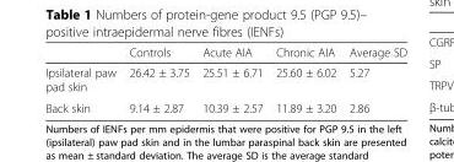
<table><thead><tr><td></td><td>Controls</td><td>Acute AIA</td><td>Chronic AIA</td><td>Average SD</td></tr></thead><tbody><tr><td>Ipsilateral paw pad skin</td><td>26.42 ± 3.75</td><td>25.51 ± 6.71</td><td>25.60 ± 6.02</td><td>5.27</td></tr><tr><td>Back skin</td><td>9.14 ± 2.87</td><td>10.39 ± 2.57</td><td>11.89 ± 3.20</td><td>2.86</td></tr></tbody></table>